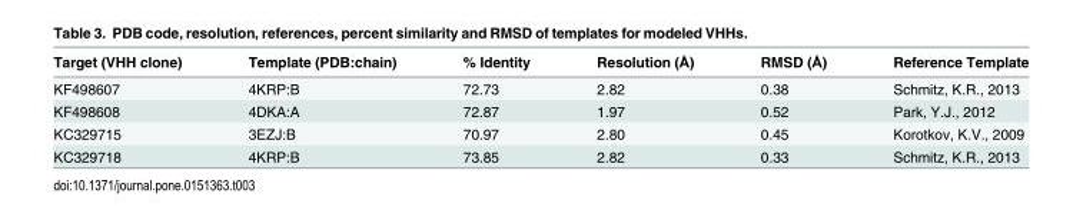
<table><thead><tr><td>Target (VHH clone)</td><td>Template (PDB:chain)</td><td>% Identity</td><td>Resolution (Å)</td><td>RMSD (Å)</td><td>Reference Template</td></tr></thead><tbody><tr><td>KF498607</td><td>4KRP:B</td><td>72.73</td><td>2.82</td><td>0.38</td><td>Schmitz, K.R., 2013</td></tr><tr><td>KF498608</td><td>4DKA:A</td><td>72.87</td><td>1.97</td><td>0.52</td><td>Park, Y.J., 2012</td></tr><tr><td>KC329715</td><td>3EZJ:B</td><td>70.97</td><td>2.80</td><td>0.45</td><td>Korotkov, K.V., 2009</td></tr><tr><td>KC329718</td><td>4KRP:B</td><td>73.85</td><td>2.82</td><td>0.33</td><td>Schmitz, K.R., 2013</td></tr></tbody></table>